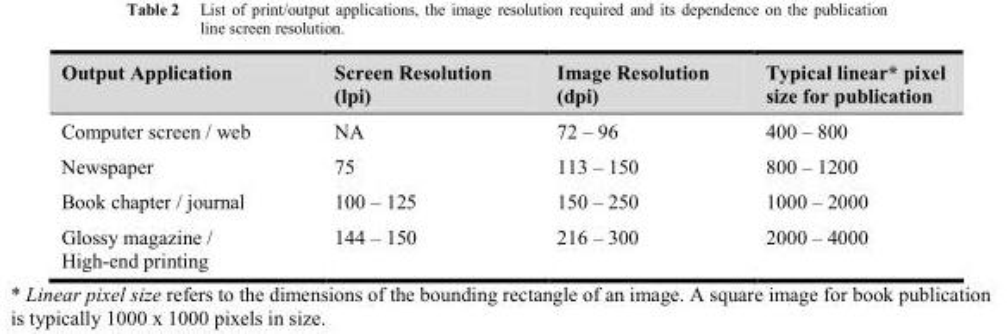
<table><thead><tr><td>Output Application</td><td>Screen Resolution (lpi)</td><td>Image Resolution (dpi)</td><td>Typical linear* pixel size for publication</td></tr></thead><tbody><tr><td>Computer screen / web</td><td>NA</td><td>72 – 96</td><td>400 – 800</td></tr><tr><td>Newspaper</td><td>75</td><td>113 – 150</td><td>800 – 1200</td></tr><tr><td>Book chapter / journal</td><td>100 – 125</td><td>150 – 250</td><td>1000 – 2000</td></tr><tr><td>Glossy magazine / High-end printing</td><td>144 – 150</td><td>216 – 300</td><td>2000 – 4000</td></tr></tbody></table>